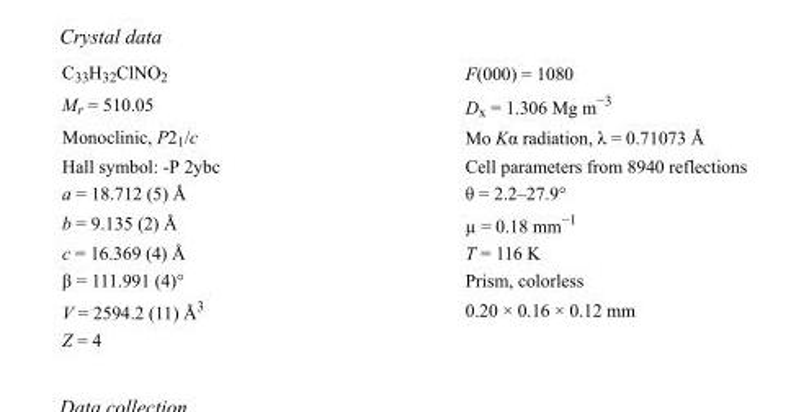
<table><tbody><tr><td>C<sub>33</sub>H<sub>32</sub>ClNO<sub>2</sub></td><td>F(000) = 1080</td></tr><tr><td>M<sub>r</sub> = 510.05</td><td>D<sub>x</sub> = 1.306 Mg m<sup>−3</sup></td></tr><tr><td>Monoclinic, P2<sub>1</sub>/c</td><td>Mo Kα radiation, λ = 0.71073 Å</td></tr><tr><td>Hall symbol: -P 2ybc</td><td>Cell parameters from 8940 reflections</td></tr><tr><td>a = 18.712 (5) Å</td><td>θ = 2.2–27.9°</td></tr><tr><td>b = 9.135 (2) Å</td><td>µ = 0.18 mm<sup>−1</sup></td></tr><tr><td>c = 16.369 (4) Å</td><td>T = 116 K</td></tr><tr><td>β = 111.991 (4)°</td><td>Prism, colorless</td></tr><tr><td>V = 2594.2 (11) Å<sup>3</sup></td><td>0.20 × 0.16 × 0.12 mm</td></tr><tr><td>Z = 4</td><td></td></tr></tbody></table>